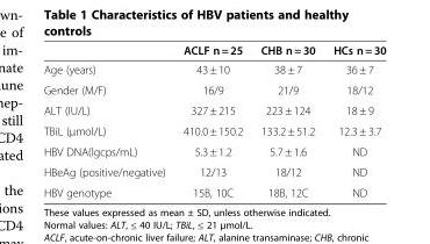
<table><thead><tr><td></td><td>ACLF n = 25</td><td>CHB n = 30</td><td>HCs n = 30</td></tr></thead><tbody><tr><td>Age (years)</td><td>43 ± 10</td><td>38 ± 7</td><td>36 ± 7</td></tr><tr><td>Gender (M/F)</td><td>16/9</td><td>21/9</td><td>18/12</td></tr><tr><td>ALT (IU/L)</td><td>327 ± 215</td><td>223 ± 124</td><td>18 ± 9</td></tr><tr><td>TBiL (μmol/L)</td><td>410.0 ± 150.2</td><td>133.2 ± 51.2</td><td>12.3 ± 3.7</td></tr><tr><td>HBV DNA(lgcps/mL)</td><td>5.3 ± 1.2</td><td>5.7 ± 1.6</td><td>ND</td></tr><tr><td>HBeAg (positive/negative)</td><td>12/13</td><td>18/12</td><td>ND</td></tr><tr><td>HBV genotype</td><td>15B, 10C</td><td>18B, 12C</td><td>ND</td></tr></tbody></table>